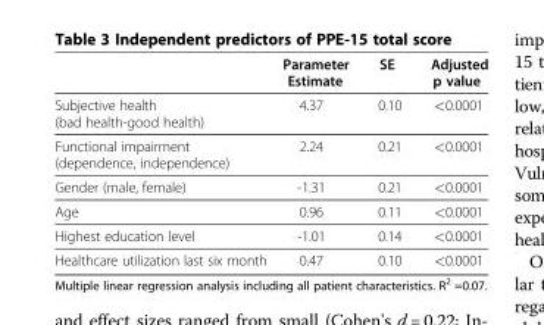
<table><thead><tr><td></td><td>Parameter Estimate</td><td>SE</td><td>Adjusted p value</td></tr></thead><tbody><tr><td>Subjective health (bad health-good health)</td><td>4.37</td><td>0.10</td><td>&lt;0.0001</td></tr><tr><td>Functional impairment (dependence, independence)</td><td>2.24</td><td>0.21</td><td>&lt;0.0001</td></tr><tr><td>Gender (male, female)</td><td>-1.31</td><td>0.21</td><td>&lt;0.0001</td></tr><tr><td>Age</td><td>0.96</td><td>0.11</td><td>&lt;0.0001</td></tr><tr><td>Highest education level</td><td>-1.01</td><td>0.14</td><td>&lt;0.0001</td></tr><tr><td>Healthcare utilization last six month</td><td>0.47</td><td>0.10</td><td>&lt;0.0001</td></tr></tbody></table>